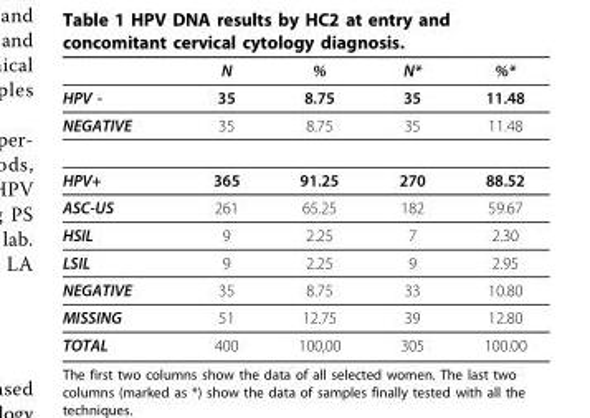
<table><thead><tr><td></td><td>N</td><td>%</td><td>N*</td><td>%*</td></tr></thead><tbody><tr><td>HPV -</td><td>35</td><td>8.75</td><td>35</td><td>11.48</td></tr><tr><td>NEGATIVE</td><td>35</td><td>8.75</td><td>35</td><td>11.48</td></tr><tr><td>HPV+</td><td>365</td><td>91.25</td><td>270</td><td>88.52</td></tr><tr><td>ASC-US</td><td>261</td><td>65.25</td><td>182</td><td>59.67</td></tr><tr><td>HSIL</td><td>9</td><td>2.25</td><td>7</td><td>2.30</td></tr><tr><td>LSIL</td><td>9</td><td>2.25</td><td>9</td><td>2.95</td></tr><tr><td>NEGATIVE</td><td>35</td><td>8.75</td><td>33</td><td>10.80</td></tr><tr><td>MISSING</td><td>51</td><td>12.75</td><td>39</td><td>12.80</td></tr><tr><td>TOTAL</td><td>400</td><td>100,00</td><td>305</td><td>100.00</td></tr></tbody></table>